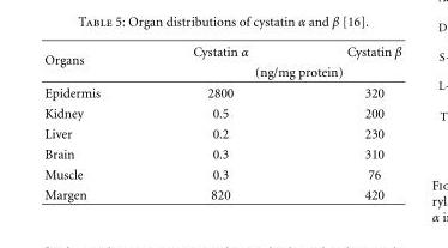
<table><thead><tr><td rowspan="2">Organs</td><td>Cystatin α</td><td>Cystatin β</td></tr><tr><td colspan="2">(ng/mg protein)</td></tr></thead><tbody><tr><td>Epidermis</td><td>2800</td><td>320</td></tr><tr><td>Kidney</td><td>0.5</td><td>200</td></tr><tr><td>Liver</td><td>0.2</td><td>230</td></tr><tr><td>Brain</td><td>0.3</td><td>310</td></tr><tr><td>Muscle</td><td>0.3</td><td>76</td></tr><tr><td>Margen</td><td>820</td><td>420</td></tr></tbody></table>